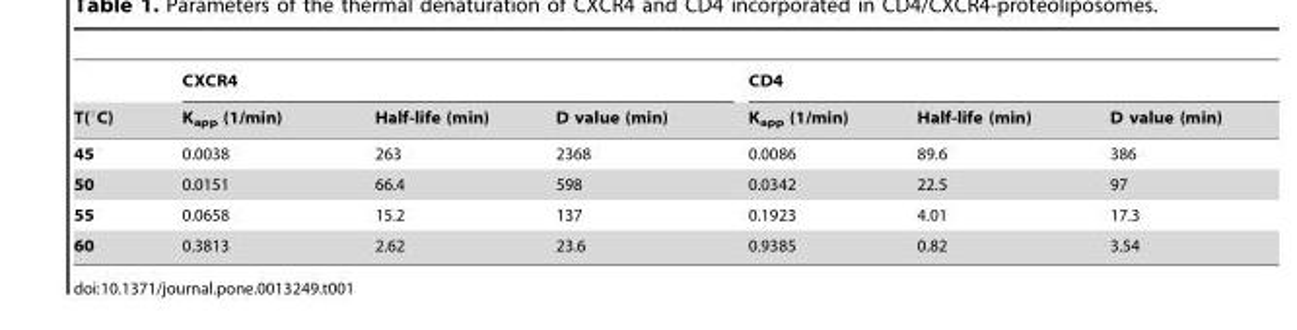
<table><thead><tr><td rowspan="2">T(°C)</td><td colspan="3">CXCR4</td><td colspan="3">CD4</td></tr><tr><td>K<sub>app</sub> (1/min)</td><td>Half-life (min)</td><td>D value (min)</td><td>K<sub>app</sub> (1/min)</td><td>Half-life (min)</td><td>D value (min)</td></tr></thead><tbody><tr><td>45</td><td>0.0038</td><td>263</td><td>2368</td><td>0.0086</td><td>89.6</td><td>386</td></tr><tr><td>50</td><td>0.0151</td><td>66.4</td><td>598</td><td>0.0342</td><td>22.5</td><td>97</td></tr><tr><td>55</td><td>0.0658</td><td>15.2</td><td>137</td><td>0.1923</td><td>4.01</td><td>17.3</td></tr><tr><td>60</td><td>0.3813</td><td>2.62</td><td>23.6</td><td>0.9385</td><td>0.82</td><td>3.54</td></tr></tbody></table>